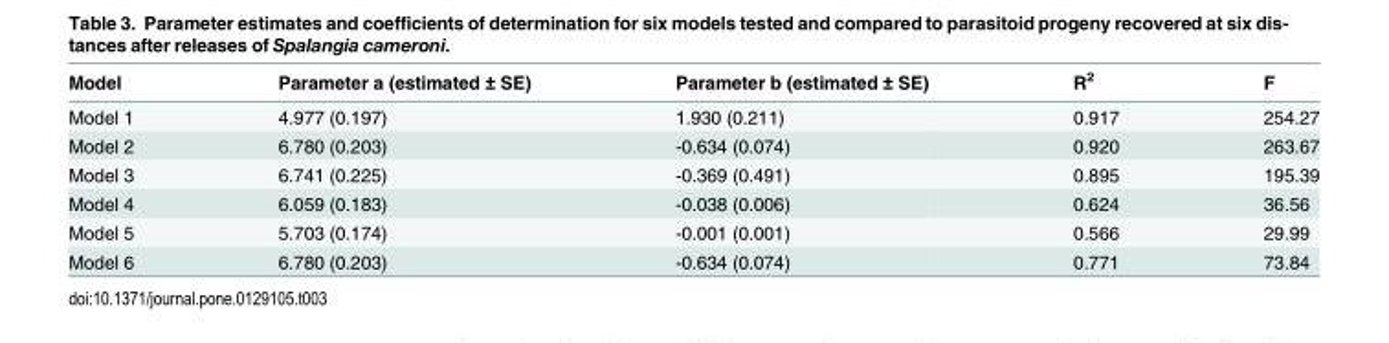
<table><thead><tr><td>Model</td><td>Parameter a (estimated ± SE)</td><td>Parameter b (estimated ± SE)</td><td>R<sup>2</sup></td><td>F</td></tr></thead><tbody><tr><td>Model 1</td><td>4.977 (0.197)</td><td>1.930 (0.211)</td><td>0.917</td><td>254.27</td></tr><tr><td>Model 2</td><td>6.780 (0.203)</td><td>-0.634 (0.074)</td><td>0.920</td><td>263.67</td></tr><tr><td>Model 3</td><td>6.741 (0.225)</td><td>-0.369 (0.491)</td><td>0.895</td><td>195.39</td></tr><tr><td>Model 4</td><td>6.059 (0.183)</td><td>-0.038 (0.006)</td><td>0.624</td><td>36.56</td></tr><tr><td>Model 5</td><td>5.703 (0.174)</td><td>-0.001 (0.001)</td><td>0.566</td><td>29.99</td></tr><tr><td>Model 6</td><td>6.780 (0.203)</td><td>-0.634 (0.074)</td><td>0.771</td><td>73.84</td></tr></tbody></table>